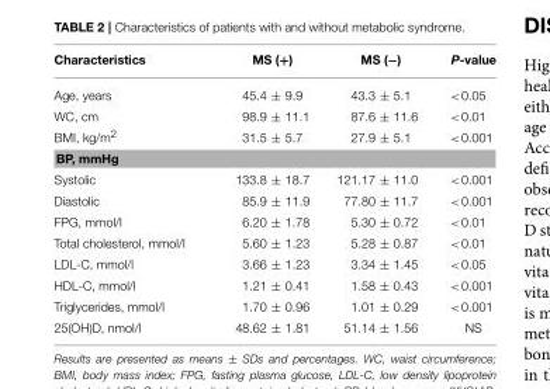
<table><thead><tr><td>Characteristics</td><td>MS (+)</td><td>MS (−)</td><td>P-value</td></tr></thead><tbody><tr><td>Age, years</td><td>45.4 ± 9.9</td><td>43.3 ± 5.1</td><td>&lt;0.05</td></tr><tr><td>WC, cm</td><td>98.9 ± 11.1</td><td>87.6 ± 11.6</td><td>&lt;0.01</td></tr><tr><td>BMI, kg/m<sup>2</sup></td><td>31.5 ± 5.7</td><td>27.9 ± 5.1</td><td>&lt;0.001</td></tr><tr><td colspan="4">BP, mmHg</td></tr><tr><td>Systolic</td><td>133.8 ± 18.7</td><td>121.17 ± 11.0</td><td>&lt;0.001</td></tr><tr><td>Diastolic</td><td>85.9 ± 11.9</td><td>77.80 ± 11.7</td><td>&lt;0.001</td></tr><tr><td>FPG, mmol/l</td><td>6.20 ± 1.78</td><td>5.30 ± 0.72</td><td>&lt;0.01</td></tr><tr><td>Total cholesterol, mmol/l</td><td>5.60 ± 1.23</td><td>5.28 ± 0.87</td><td>&lt;0.01</td></tr><tr><td>LDL-C, mmol/l</td><td>3.66 ± 1.23</td><td>3.34 ± 1.45</td><td>&lt;0.05</td></tr><tr><td>HDL-C, mmol/l</td><td>1.21 ± 0.41</td><td>1.58 ± 0.43</td><td>&lt;0.001</td></tr><tr><td>Triglycerides, mmol/l</td><td>1.70 ± 0.96</td><td>1.01 ± 0.29</td><td>&lt;0.001</td></tr><tr><td>25(OH)D, nmol/l</td><td>48.62 ± 1.81</td><td>51.14 ± 1.56</td><td>NS</td></tr></tbody></table>